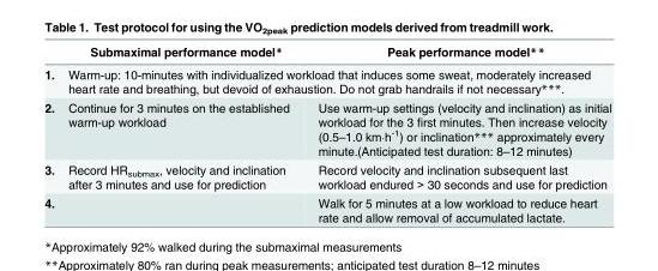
<table><thead><tr><td></td><td>Submaximal performance model*</td><td>Peak performance model**</td></tr></thead><tbody><tr><td>1.</td><td colspan="2">Warm-up: 10-minutes with individualized workload that induces some sweat, moderately increased heart rate and breathing, but devoid of exhaustion. Do not grab handrails if not necessary***.</td></tr><tr><td>2.</td><td>Continue for 3 minutes on the established warm-up workload</td><td>Use warm-up settings (velocity and inclination) as initial workload for the 3 first minutes. Then increase velocity (0.5–1.0 km⋅h<sup>-1</sup>) or inclination*** approximately every minute.(Anticipated test duration: 8–12 minutes)</td></tr><tr><td>3.</td><td>Record HR<sub>submax</sub>, velocity and inclination after 3 minutes and use for prediction</td><td>Record velocity and inclination subsequent last workload endured &gt; 30 seconds and use for prediction</td></tr><tr><td>4.</td><td></td><td>Walk for 5 minutes at a low workload to reduce heart rate and allow removal of accumulated lactate.</td></tr></tbody></table>